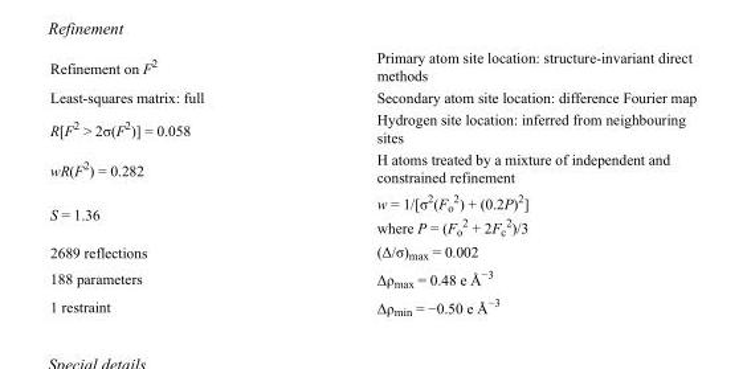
<table><tbody><tr><td>Refinement on F<sup>2</sup></td><td>Primary atom site location: structure-invariant direct methods</td></tr><tr><td>Least-squares matrix: full</td><td>Secondary atom site location: difference Fourier map</td></tr><tr><td>R[F<sup>2</sup> &gt; 2σ(F<sup>2</sup>)] = 0.058</td><td>Hydrogen site location: inferred from neighbouring sites</td></tr><tr><td>wR(F<sup>2</sup>) = 0.282</td><td>H atoms treated by a mixture of independent and constrained refinement</td></tr><tr><td>S = 1.36</td><td>w = 1/[σ<sup>2</sup>(F<sub>o</sub> <sup>2</sup>) + (0.2P)<sup>2</sup>] where P = (F<sub>o</sub> <sup>2</sup> + 2F<sub>c</sub> <sup>2</sup>)/3</td></tr><tr><td>2689 reflections</td><td>(Δ/σ)<sub>max</sub> = 0.002</td></tr><tr><td>188 parameters</td><td>Δρ<sub>max</sub> = 0.48 e Å<sup>−3</sup></td></tr><tr><td>1 restraint</td><td>Δρ<sub>min</sub> = −0.50 e Å<sup>−3</sup></td></tr></tbody></table>